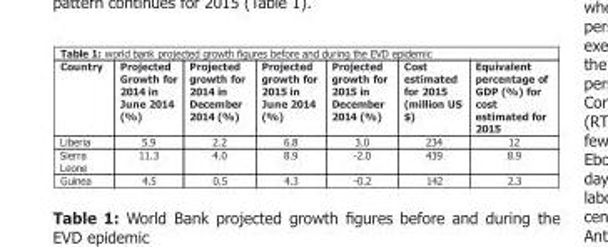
<table><thead><tr><td>Country</td><td>Projected Growth for 2014 in June 2014 (%)</td><td>Projected growth for 2014 in December 2014 (%)</td><td>Projected growth for 2015 in June 2014 (%)</td><td>Projected growth for 2015 in December 2014 (%)</td><td>Cost estimated for 2015 (million US $)</td><td>Equivalent percentage of GDP (%) for cost estimated for 2015</td></tr></thead><tbody><tr><td>Liberia</td><td>5.9</td><td>2.2</td><td>6.8</td><td>3.0</td><td>234</td><td>12</td></tr><tr><td>Sierra Leone</td><td>11.3</td><td>4.0</td><td>8.9</td><td>2.0</td><td>439</td><td>8.9</td></tr><tr><td>Guinea</td><td>4.5</td><td>0.5</td><td>4.3</td><td>0.2</td><td>142</td><td>2.3</td></tr></tbody></table>